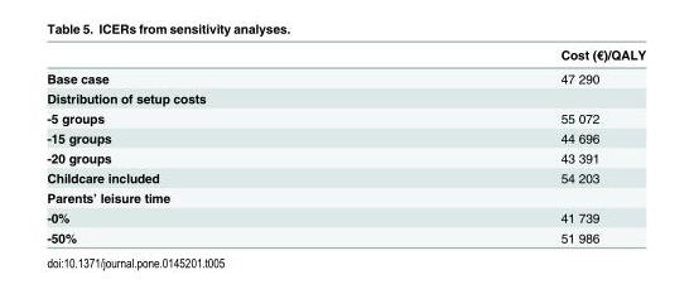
<table><thead><tr><td></td><td>Cost (€)/QALY</td></tr></thead><tbody><tr><td>Base case</td><td>47 290</td></tr><tr><td colspan="2">Distribution of setup costs</td></tr><tr><td>-5 groups</td><td>55 072</td></tr><tr><td>-15 groups</td><td>44 696</td></tr><tr><td>-20 groups</td><td>43 391</td></tr><tr><td>Childcare included</td><td>54 203</td></tr><tr><td colspan="2">Parents’ leisure time</td></tr><tr><td>-0%</td><td>41 739</td></tr><tr><td>-50%</td><td>51 986</td></tr></tbody></table>